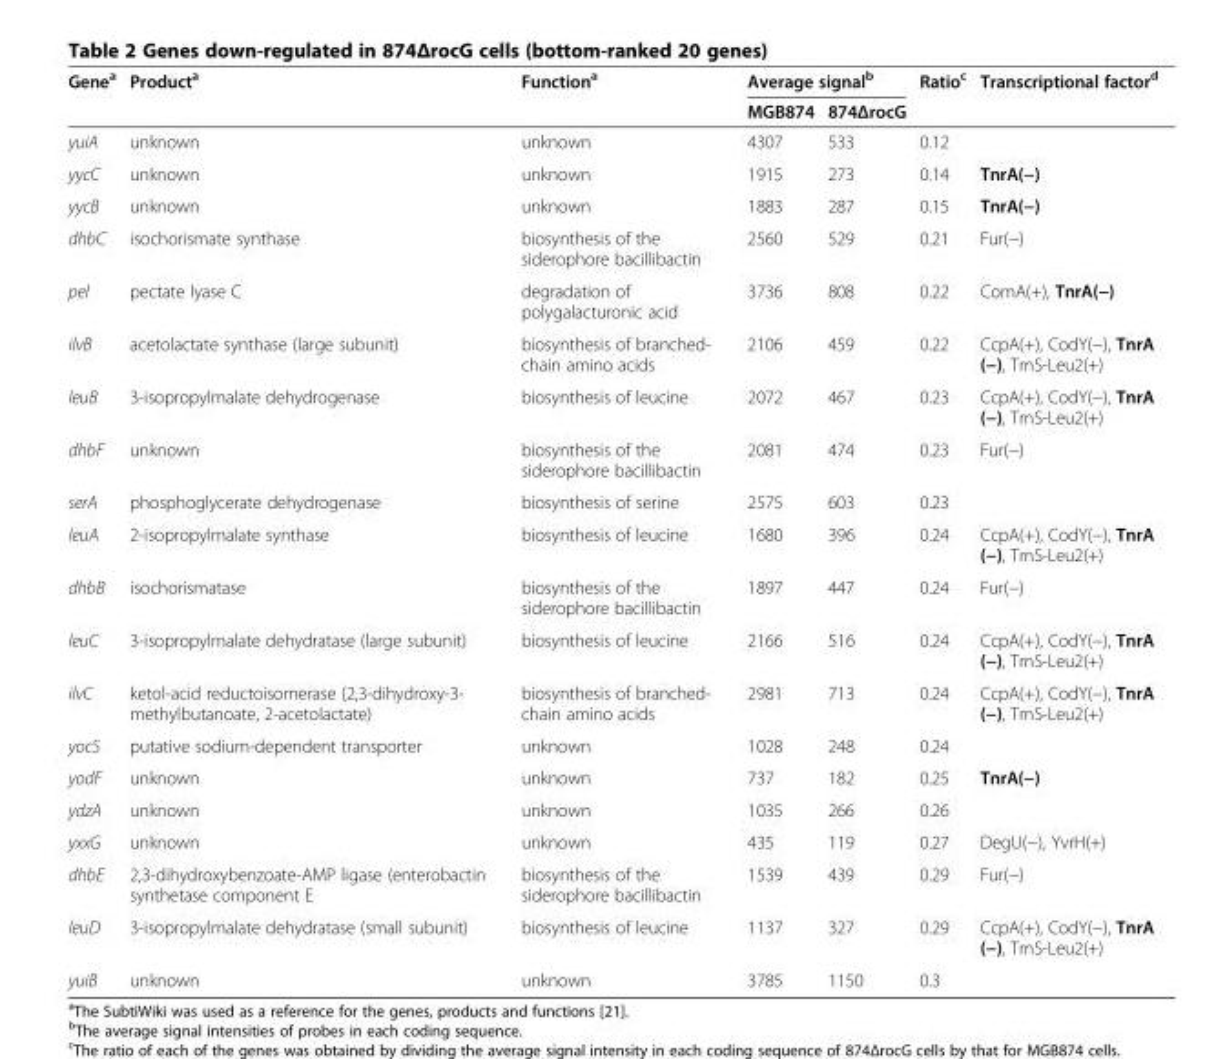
<table><thead><tr><td rowspan="2">Gene<sup>a</sup></td><td rowspan="2">Product<sup>a</sup></td><td rowspan="2">Function<sup>a</sup></td><td colspan="2">Average signal<sup>b</sup></td><td rowspan="2">Ratio<sup>c</sup></td><td rowspan="2">Transcriptional factor<sup>d</sup></td></tr><tr><td>MGB874</td><td>874ΔrocG</td></tr></thead><tbody><tr><td>yuiA</td><td>unknown</td><td>unknown</td><td>4307</td><td>533</td><td>0.12</td><td></td></tr><tr><td>yycC</td><td>unknown</td><td>unknown</td><td>1915</td><td>273</td><td>0.14</td><td>TnrA(−)</td></tr><tr><td>yycB</td><td>unknown</td><td>unknown</td><td>1883</td><td>287</td><td>0.15</td><td>TnrA(−)</td></tr><tr><td>dhbC</td><td>isochorismate synthase</td><td>biosynthesis of the siderophore bacillibactin</td><td>2560</td><td>529</td><td>0.21</td><td>Fur(−)</td></tr><tr><td>pel</td><td>pectate lyase C</td><td>degradation of polygalacturonic acid</td><td>3736</td><td>808</td><td>0.22</td><td>ComA(+), TnrA(−)</td></tr><tr><td>ilvB</td><td>acetolactate synthase (large subunit)</td><td>biosynthesis of branched- chain amino acids</td><td>2106</td><td>459</td><td>0.22</td><td>CcpA(+), CodY(−), TnrA (−), TrnS-Leu2(+)</td></tr><tr><td>leuB</td><td>3-isopropylmalate dehydrogenase</td><td>biosynthesis of leucine</td><td>2072</td><td>467</td><td>0.23</td><td>CcpA(+), CodY(−), TnrA (−), TrnS-Leu2(+)</td></tr><tr><td>dhbF</td><td>unknown</td><td>biosynthesis of the siderophore bacillibactin</td><td>2081</td><td>474</td><td>0.23</td><td>Fur(−)</td></tr><tr><td>serA</td><td>phosphoglycerate dehydrogenase</td><td>biosynthesis of serine</td><td>2575</td><td>603</td><td>0.23</td><td></td></tr><tr><td>leuA</td><td>2-isopropylmalate synthase</td><td>biosynthesis of leucine</td><td>1680</td><td>396</td><td>0.24</td><td>CcpA(+), CodY(−), TnrA (−), TrnS-Leu2(+)</td></tr><tr><td>dhbB</td><td>isochorismatase</td><td>biosynthesis of the siderophore bacillibactin</td><td>1897</td><td>447</td><td>0.24</td><td>Fur(−)</td></tr><tr><td>leuC</td><td>3-isopropylmalate dehydratase (large subunit)</td><td>biosynthesis of leucine</td><td>2166</td><td>516</td><td>0.24</td><td>CcpA(+), CodY(−), TnrA (−), TrnS-Leu2(+)</td></tr><tr><td>ilvC</td><td>ketol-acid reductoisomerase (2,3-dihydroxy-3- methylbutanoate, 2-acetolactate)</td><td>biosynthesis of branched- chain amino acids</td><td>2981</td><td>713</td><td>0.24</td><td>CcpA(+), CodY(−), TnrA (−), TrnS-Leu2(+)</td></tr><tr><td>yocS</td><td>putative sodium-dependent transporter</td><td>unknown</td><td>1028</td><td>248</td><td>0.24</td><td></td></tr><tr><td>yodF</td><td>unknown</td><td>unknown</td><td>737</td><td>182</td><td>0.25</td><td>TnrA(−)</td></tr><tr><td>ydzA</td><td>unknown</td><td>unknown</td><td>1035</td><td>266</td><td>0.26</td><td></td></tr><tr><td>yxxG</td><td>unknown</td><td>unknown</td><td>435</td><td>119</td><td>0.27</td><td>DegU(−), YvrH(+)</td></tr><tr><td>dhbE</td><td>2,3-dihydroxybenzoate-AMP ligase (enterobactin synthetase component E</td><td>biosynthesis of the siderophore bacillibactin</td><td>1539</td><td>439</td><td>0.29</td><td>Fur(−)</td></tr><tr><td>leuD</td><td>3-isopropylmalate dehydratase (small subunit)</td><td>biosynthesis of leucine</td><td>1137</td><td>327</td><td>0.29</td><td>CcpA(+), CodY(−), TnrA (−), TrnS-Leu2(+)</td></tr><tr><td>yuiB</td><td>unknown</td><td>unknown</td><td>3785</td><td>1150</td><td>0.3</td><td></td></tr></tbody></table>